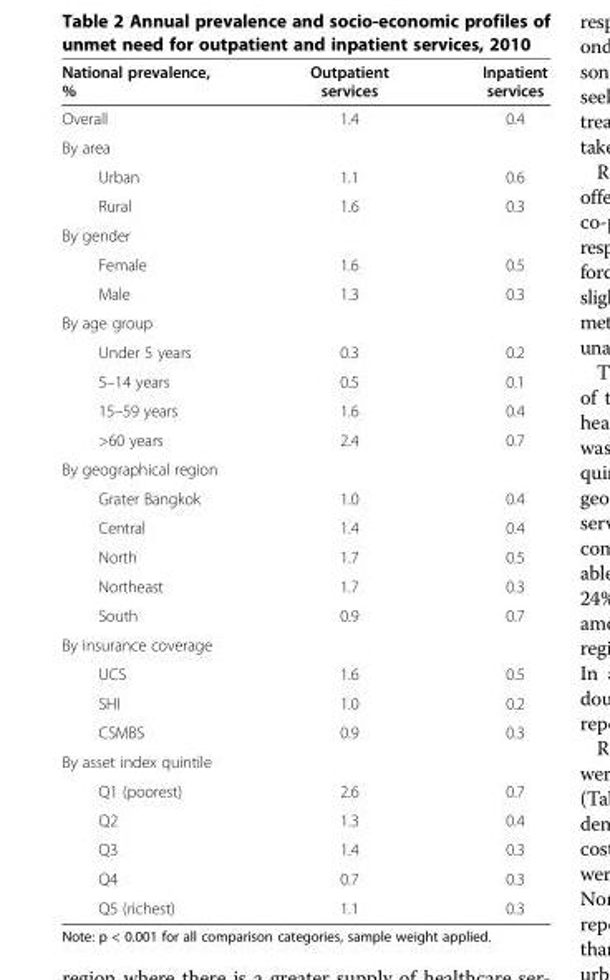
<table><thead><tr><td>National prevalence, %</td><td>Outpatient services</td><td>Inpatient services</td></tr></thead><tbody><tr><td>Overall</td><td>1.4</td><td>0.4</td></tr><tr><td colspan="3">By area</td></tr><tr><td>Urban</td><td>1.1</td><td>0.6</td></tr><tr><td>Rural</td><td>1.6</td><td>0.3</td></tr><tr><td colspan="3">By gender</td></tr><tr><td>Female</td><td>1.6</td><td>0.5</td></tr><tr><td>Male</td><td>1.3</td><td>0.3</td></tr><tr><td colspan="3">By age group</td></tr><tr><td>Under 5 years</td><td>0.3</td><td>0.2</td></tr><tr><td>5–14 years</td><td>0.5</td><td>0.1</td></tr><tr><td>15–59 years</td><td>1.6</td><td>0.4</td></tr><tr><td>&gt;60 years</td><td>2.4</td><td>0.7</td></tr><tr><td colspan="3">By geographical region</td></tr><tr><td>Grater Bangkok</td><td>1.0</td><td>0.4</td></tr><tr><td>Central</td><td>1.4</td><td>0.4</td></tr><tr><td>North</td><td>1.7</td><td>0.5</td></tr><tr><td>Northeast</td><td>1.7</td><td>0.3</td></tr><tr><td>South</td><td>0.9</td><td>0.7</td></tr><tr><td colspan="3">By insurance coverage</td></tr><tr><td>UCS</td><td>1.6</td><td>0.5</td></tr><tr><td>SHI</td><td>1.0</td><td>0.2</td></tr><tr><td>CSMBS</td><td>0.9</td><td>0.3</td></tr><tr><td colspan="3">By asset index quintile</td></tr><tr><td>Q1 (poorest)</td><td>2.6</td><td>0.7</td></tr><tr><td>Q2</td><td>1.3</td><td>0.4</td></tr><tr><td>Q3</td><td>1.4</td><td>0.3</td></tr><tr><td>Q4</td><td>0.7</td><td>0.3</td></tr><tr><td>Q5 (richest)</td><td>1.1</td><td>0.3</td></tr></tbody></table>